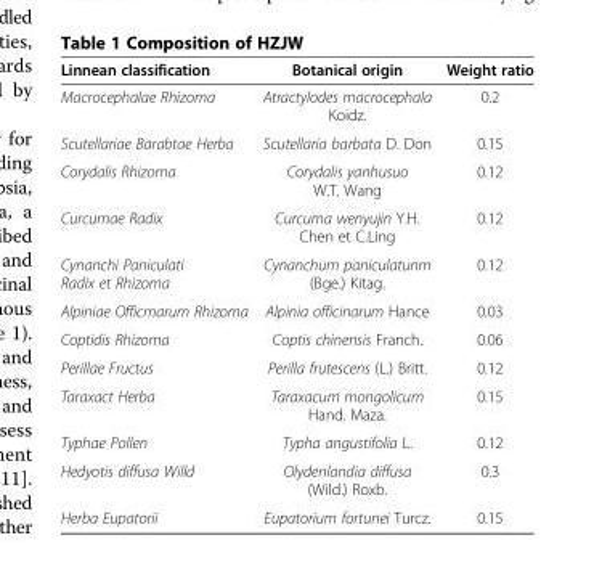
<table><thead><tr><td>Linnean classification</td><td>Botanical origin</td><td>Weight ratio</td></tr></thead><tbody><tr><td>Macrocephalae Rhizoma</td><td>Atractylodes macrocephala Koidz.</td><td>0.2</td></tr><tr><td>Scutellariae Barabtae Herba</td><td>Scutellaria barbata D. Don</td><td>0.15</td></tr><tr><td>Corydalis Rhizoma</td><td>Corydalis yanhusuo W.T. Wang</td><td>0.12</td></tr><tr><td>Curcumae Radix</td><td>Curcuma wenyujin Y.H. Chen et C.Ling</td><td>0.12</td></tr><tr><td>Cynanchi Paniculati Radix et Rhizoma</td><td>Cynanchum paniculatunm (Bge.) Kitag.</td><td>0.12</td></tr><tr><td>Alpiniae Officmarum Rhizoma</td><td>Alpinia officinarum Hance</td><td>0.03</td></tr><tr><td>Coptidis Rhizoma</td><td>Coptis chinensis Franch.</td><td>0.06</td></tr><tr><td>Perillae Fructus</td><td>Perilla frutescens (L.) Britt.</td><td>0.12</td></tr><tr><td>Taraxact Herba</td><td>Taraxacum mongolicum Hand. Maza.</td><td>0.15</td></tr><tr><td>Typhae Pollen</td><td>Typha angustifolia L.</td><td>0.12</td></tr><tr><td>Hedyotis diffusa Willd</td><td>Olydenlandia diffusa (Wild.) Roxb.</td><td>0.3</td></tr><tr><td>Herba Eupatorii</td><td>Eupatorium fortunei Turcz.</td><td>0.15</td></tr></tbody></table>